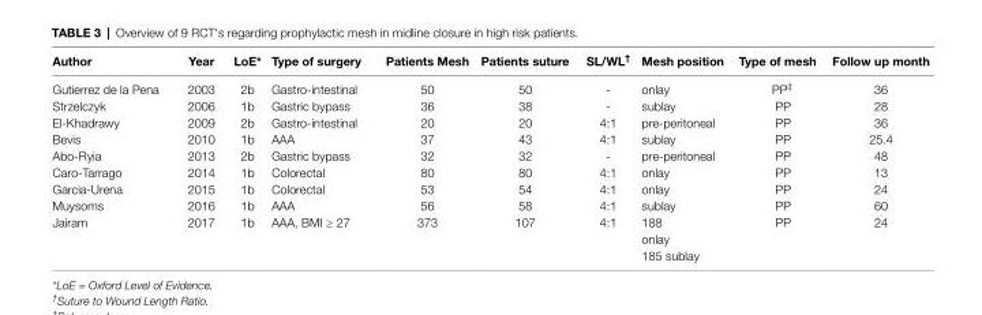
<table><thead><tr><td>Author</td><td>Year</td><td>Loe*</td><td>Type of surgery</td><td>Patients Mesh</td><td>Patients suture</td><td>sL/wL<sup>†</sup></td><td>Mesh position</td><td>Type of mesh</td><td>Follow up month</td></tr></thead><tbody><tr><td>Gutierrez de la Pena</td><td>2003</td><td>2b</td><td>Gastro-intestinal</td><td>50</td><td>50</td><td>-</td><td>onlay</td><td>PP<sup>‡</sup></td><td>36</td></tr><tr><td>Strzelczyk</td><td>2006</td><td>1b</td><td>Gastric bypass</td><td>36</td><td>38</td><td>-</td><td>sublay</td><td>PP</td><td>28</td></tr><tr><td>El-Khadrawy</td><td>2009</td><td>2b</td><td>Gastro-intestinal</td><td>20</td><td>20</td><td>4:1</td><td>pre-peritoneal</td><td>PP</td><td>36</td></tr><tr><td>Bevis</td><td>2010</td><td>1b</td><td>AAA</td><td>37</td><td>43</td><td>4:1</td><td>sublay</td><td>PP</td><td>25.4</td></tr><tr><td>Abo-Ryia</td><td>2013</td><td>2b</td><td>Gastric bypass</td><td>32</td><td>32</td><td>-</td><td>pre-peritoneal</td><td>PP</td><td>48</td></tr><tr><td>Caro-Tarrago</td><td>2014</td><td>1b</td><td>Colorectal</td><td>80</td><td>80</td><td>4:1</td><td>onlay</td><td>PP</td><td>13</td></tr><tr><td>Garcia-Urena</td><td>2015</td><td>1b</td><td>Colorectal</td><td>53</td><td>54</td><td>4:1</td><td>onlay</td><td>PP</td><td>24</td></tr><tr><td>Muysoms</td><td>2016</td><td>1b</td><td>AAA</td><td>56</td><td>58</td><td>4:1</td><td>sublay</td><td>PP</td><td>60</td></tr><tr><td>Jairam</td><td>2017</td><td>1b</td><td>AAA, BMI ≥ 27</td><td>373</td><td>107</td><td>4:1</td><td>188 onlay 185 sublay</td><td>PP</td><td>24</td></tr></tbody></table>